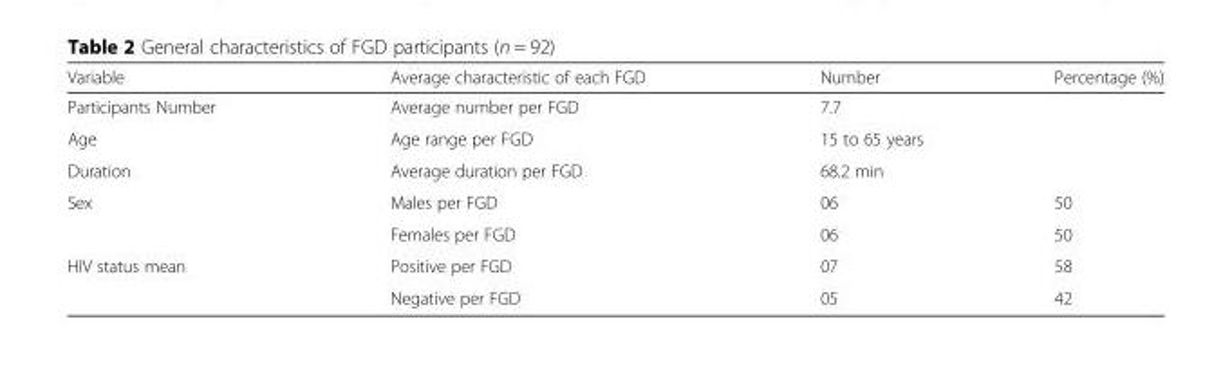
<table><thead><tr><td>Variable</td><td>Average characteristic of each FGD</td><td>Number</td><td>Percentage (%)</td></tr></thead><tbody><tr><td>Participants Number</td><td>Average number per FGD</td><td colspan="2">7.7</td></tr><tr><td>Age</td><td>Age range per FGD</td><td colspan="2">15 to 65 years</td></tr><tr><td>Duration</td><td>Average duration per FGD</td><td colspan="2">68.2 min</td></tr><tr><td rowspan="2">Sex</td><td>Males per FGD</td><td>06</td><td>50</td></tr><tr><td>Females per FGD</td><td>06</td><td>50</td></tr><tr><td rowspan="2">HIV status mean</td><td>Positive per FGD</td><td>07</td><td>58</td></tr><tr><td>Negative per FGD</td><td>05</td><td>42</td></tr></tbody></table>